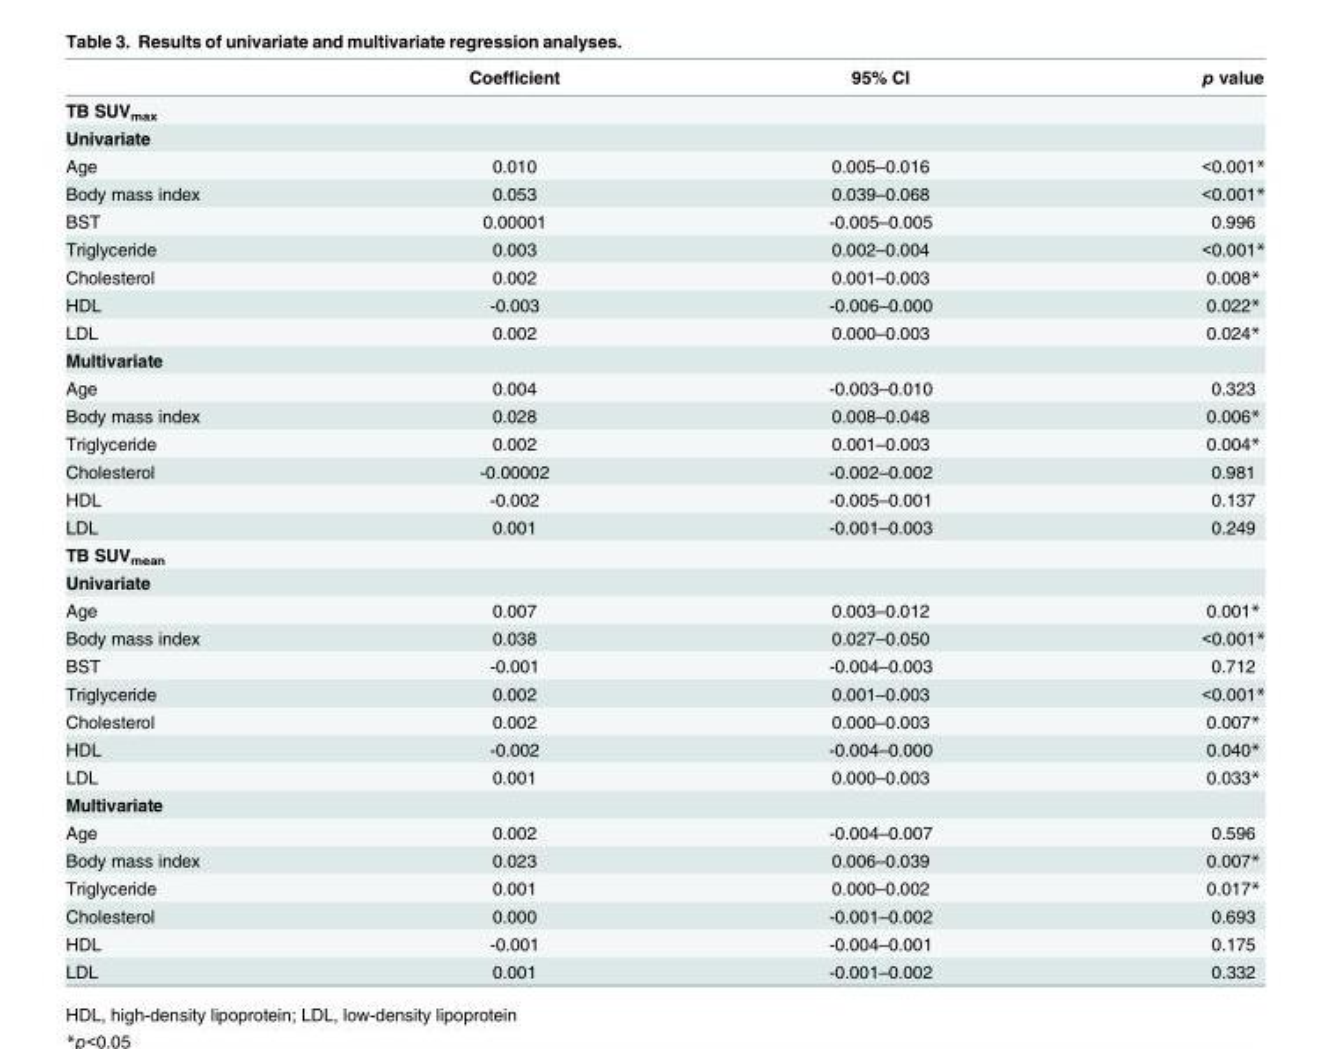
<table><thead><tr><td></td><td>Coefficient</td><td>95% CI</td><td>p value</td></tr></thead><tbody><tr><td colspan="4">TB SUV<sub>max</sub></td></tr><tr><td colspan="4">Univariate</td></tr><tr><td>Age</td><td>0.010</td><td>0.005–0.016</td><td>&lt;0.001*</td></tr><tr><td>Body mass index</td><td>0.053</td><td>0.039–0.068</td><td>&lt;0.001*</td></tr><tr><td>BST</td><td>0.00001</td><td>-0.005–0.005</td><td>0.996</td></tr><tr><td>Triglyceride</td><td>0.003</td><td>0.002–0.004</td><td>&lt;0.001*</td></tr><tr><td>Cholesterol</td><td>0.002</td><td>0.001–0.003</td><td>0.008*</td></tr><tr><td>HDL</td><td>-0.003</td><td>-0.006–0.000</td><td>0.022*</td></tr><tr><td>LDL</td><td>0.002</td><td>0.000–0.003</td><td>0.024*</td></tr><tr><td colspan="4">Multivariate</td></tr><tr><td>Age</td><td>0.004</td><td>-0.003–0.010</td><td>0.323</td></tr><tr><td>Body mass index</td><td>0.028</td><td>0.008–0.048</td><td>0.006*</td></tr><tr><td>Triglyceride</td><td>0.002</td><td>0.001–0.003</td><td>0.004*</td></tr><tr><td>Cholesterol</td><td>-0.00002</td><td>-0.002–0.002</td><td>0.981</td></tr><tr><td>HDL</td><td>-0.002</td><td>-0.005–0.001</td><td>0.137</td></tr><tr><td>LDL</td><td>0.001</td><td>-0.001–0.003</td><td>0.249</td></tr><tr><td colspan="4">TB SUV<sub>mean</sub></td></tr><tr><td colspan="4">Univariate</td></tr><tr><td>Age</td><td>0.007</td><td>0.003–0.012</td><td>0.001*</td></tr><tr><td>Body mass index</td><td>0.038</td><td>0.027–0.050</td><td>&lt;0.001*</td></tr><tr><td>BST</td><td>-0.001</td><td>-0.004–0.003</td><td>0.712</td></tr><tr><td>Triglyceride</td><td>0.002</td><td>0.001–0.003</td><td>&lt;0.001*</td></tr><tr><td>Cholesterol</td><td>0.002</td><td>0.000–0.003</td><td>0.007*</td></tr><tr><td>HDL</td><td>-0.002</td><td>-0.004–0.000</td><td>0.040*</td></tr><tr><td>LDL</td><td>0.001</td><td>0.000–0.003</td><td>0.033*</td></tr><tr><td colspan="4">Multivariate</td></tr><tr><td>Age</td><td>0.002</td><td>-0.004–0.007</td><td>0.596</td></tr><tr><td>Body mass index</td><td>0.023</td><td>0.006–0.039</td><td>0.007*</td></tr><tr><td>Triglyceride</td><td>0.001</td><td>0.000–0.002</td><td>0.017*</td></tr><tr><td>Cholesterol</td><td>0.000</td><td>-0.001–0.002</td><td>0.693</td></tr><tr><td>HDL</td><td>-0.001</td><td>-0.004–0.001</td><td>0.175</td></tr><tr><td>LDL</td><td>0.001</td><td>-0.001–0.002</td><td>0.332</td></tr></tbody></table>